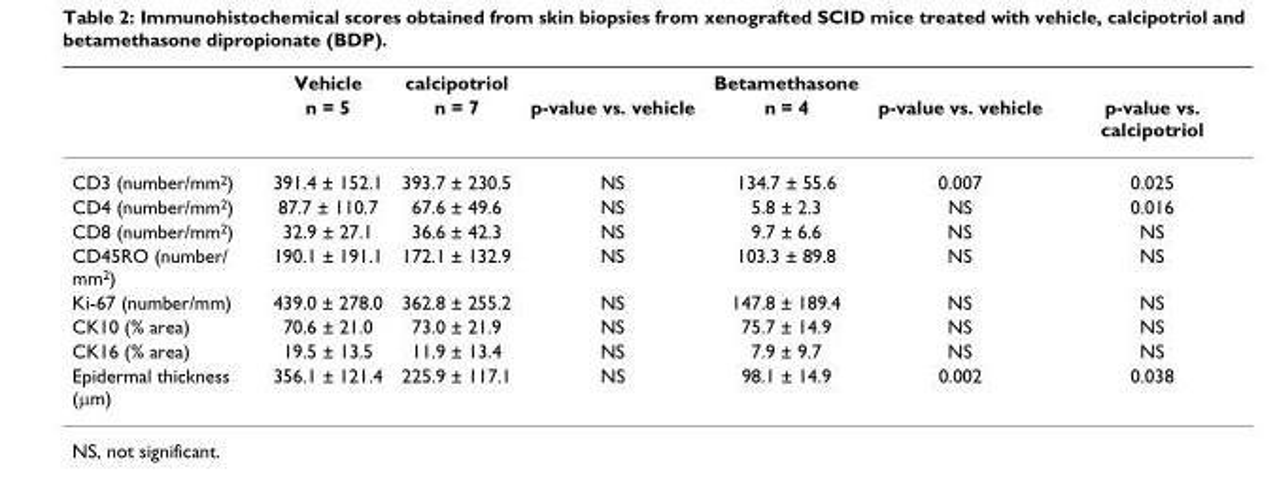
<table><thead><tr><td rowspan="2"></td><td rowspan="2">Vehicle n = 5</td><td rowspan="2">calcipotriol n = 7</td><td rowspan="2">p-value vs. vehicle</td><td rowspan="2">Betamethasone n = 4</td><td rowspan="2">p-value vs. vehicle</td><td rowspan="2">p-value vs. calcipotriol</td></tr><tr></tr></thead><tbody><tr><td>CD3 (number/mm<sup>2</sup>)</td><td>391.4 ± 152.1</td><td>393.7 ± 230.5</td><td>NS</td><td>134.7 ± 55.6</td><td>0.007</td><td>0.025</td></tr><tr><td>CD4 (number/mm<sup>2</sup>)</td><td>87.7 ± 110.7</td><td>67.6 ± 49.6</td><td>NS</td><td>5.8 ± 2.3</td><td>NS</td><td>0.016</td></tr><tr><td>CD8 (number/mm<sup>2</sup>)</td><td>32.9 ± 27.1</td><td>36.6 ± 42.3</td><td>NS</td><td>9.7 ± 6.6</td><td>NS</td><td>NS</td></tr><tr><td>CD45RO (number/ mm<sup>2</sup>)</td><td>190.1 ± 191.1</td><td>172.1 ± 132.9</td><td>NS</td><td>103.3 ± 89.8</td><td>NS</td><td>NS</td></tr><tr><td>Ki-67 (number/mm)</td><td>439.0 ± 278.0</td><td>362.8 ± 255.2</td><td>NS</td><td>147.8 ± 189.4</td><td>NS</td><td>NS</td></tr><tr><td>CK10 (% area)</td><td>70.6 ± 21.0</td><td>73.0 ± 21.9</td><td>NS</td><td>75.7 ± 14.9</td><td>NS</td><td>NS</td></tr><tr><td>CK16 (% area)</td><td>19.5 ± 13.5</td><td>11.9 ± 13.4</td><td>NS</td><td>7.9 ± 9.7</td><td>NS</td><td>NS</td></tr><tr><td>Epidermal thickness (μm)</td><td>356.1 ± 121.4</td><td>225.9 ± 117.1</td><td>NS</td><td>98.1 ± 14.9</td><td>0.002</td><td>0.038</td></tr></tbody></table>